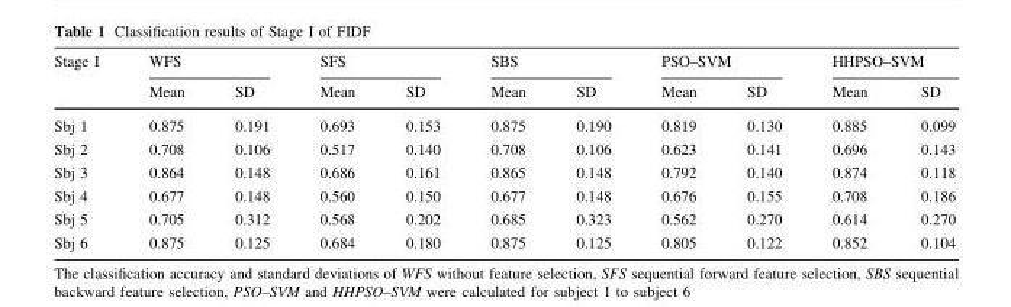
<table><thead><tr><td rowspan="2">Stage I</td><td colspan="2">WFS</td><td colspan="2">SFS</td><td colspan="2">SBS</td><td colspan="2">PSO–SVM</td><td colspan="2">HHPSO–SVM</td></tr><tr><td>Mean</td><td>SD</td><td>Mean</td><td>SD</td><td>Mean</td><td>SD</td><td>Mean</td><td>SD</td><td>Mean</td><td>SD</td></tr></thead><tbody><tr><td>Sbj 1</td><td>0.875</td><td>0.191</td><td>0.693</td><td>0.153</td><td>0.875</td><td>0.190</td><td>0.819</td><td>0.130</td><td>0.885</td><td>0.099</td></tr><tr><td>Sbj 2</td><td>0.708</td><td>0.106</td><td>0.517</td><td>0.140</td><td>0.708</td><td>0.106</td><td>0.623</td><td>0.141</td><td>0.696</td><td>0.143</td></tr><tr><td>Sbj 3</td><td>0.864</td><td>0.148</td><td>0.686</td><td>0.161</td><td>0.865</td><td>0.148</td><td>0.792</td><td>0.140</td><td>0.874</td><td>0.118</td></tr><tr><td>Sbj 4</td><td>0.677</td><td>0.148</td><td>0.560</td><td>0.150</td><td>0.677</td><td>0.148</td><td>0.676</td><td>0.155</td><td>0.708</td><td>0.186</td></tr><tr><td>Sbj 5</td><td>0.705</td><td>0.312</td><td>0.568</td><td>0.202</td><td>0.685</td><td>0.323</td><td>0.562</td><td>0.270</td><td>0.614</td><td>0.270</td></tr><tr><td>Sbj 6</td><td>0.875</td><td>0.125</td><td>0.684</td><td>0.180</td><td>0.875</td><td>0.125</td><td>0.805</td><td>0.122</td><td>0.852</td><td>0.104</td></tr></tbody></table>